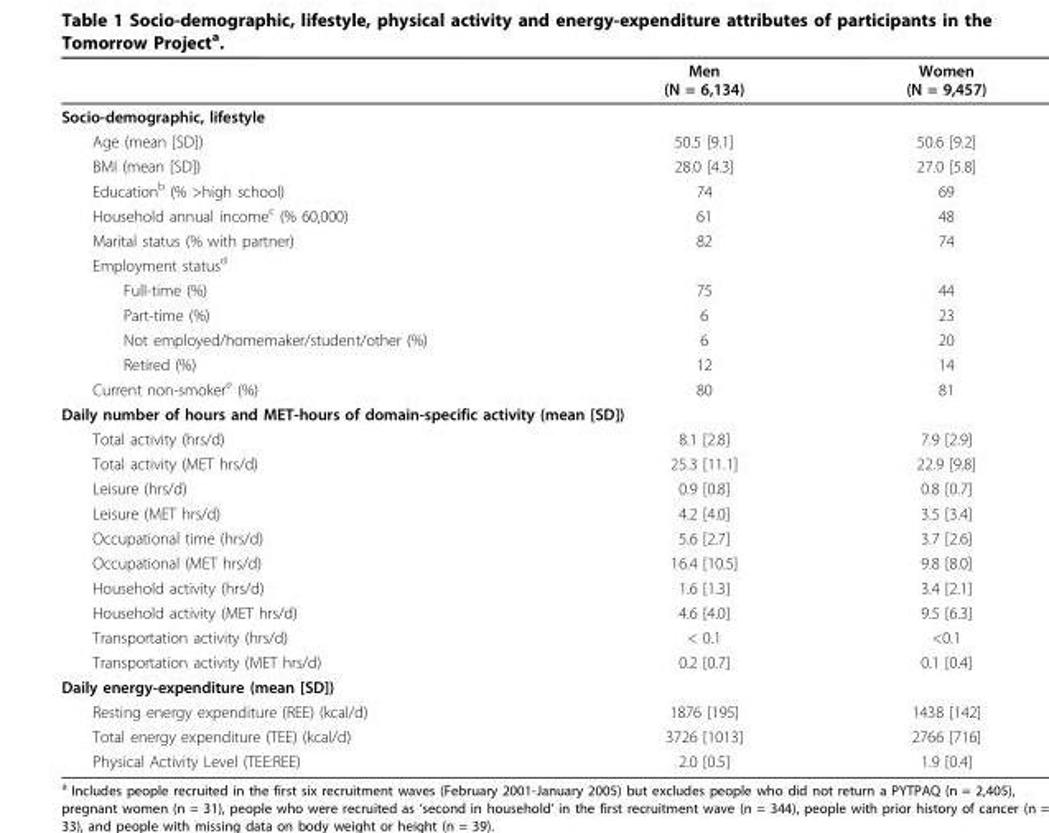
<table><thead><tr><td></td><td>Men (N = 6,134)</td><td>Women (N = 9,457)</td></tr></thead><tbody><tr><td colspan="3">Socio-demographic, lifestyle</td></tr><tr><td>Age (mean [SD])</td><td>50.5 [9.1]</td><td>50.6 [9.2]</td></tr><tr><td>BMI (mean [SD])</td><td>28.0 [4.3]</td><td>27.0 [5.8]</td></tr><tr><td>Education<sup>b</sup> (% &gt;high school)</td><td>74</td><td>69</td></tr><tr><td>Household annual income<sup>c</sup> (% 60,000)</td><td>61</td><td>48</td></tr><tr><td>Marital status (% with partner)</td><td>82</td><td>74</td></tr><tr><td colspan="3">Employment status<sup>d</sup></td></tr><tr><td>Full-time (%)</td><td>75</td><td>44</td></tr><tr><td>Part-time (%)</td><td>6</td><td>23</td></tr><tr><td>Not employed/homemaker/student/other (%)</td><td>6</td><td>20</td></tr><tr><td>Retired (%)</td><td>12</td><td>14</td></tr><tr><td>Current non-smoker<sup>e</sup> (%)</td><td>80</td><td>81</td></tr><tr><td colspan="3">Daily number of hours and MET-hours of domain-specific activity (mean [SD])</td></tr><tr><td>Total activity (hrs/d)</td><td>8.1 [2.8]</td><td>7.9 [2.9]</td></tr><tr><td>Total activity (MET hrs/d)</td><td>25.3 [11.1]</td><td>22.9 [9.8]</td></tr><tr><td>Leisure (hrs/d)</td><td>0.9 [0.8]</td><td>0.8 [0.7]</td></tr><tr><td>Leisure (MET hrs/d)</td><td>4.2 [4.0]</td><td>3.5 [3.4]</td></tr><tr><td>Occupational time (hrs/d)</td><td>5.6 [2.7]</td><td>3.7 [2.6]</td></tr><tr><td>Occupational (MET hrs/d)</td><td>16.4 [10.5]</td><td>9.8 [8.0]</td></tr><tr><td>Household activity (hrs/d)</td><td>1.6 [1.3]</td><td>3.4 [2.1]</td></tr><tr><td>Household activity (MET hrs/d)</td><td>4.6 [4.0]</td><td>9.5 [6.3]</td></tr><tr><td>Transportation activity (hrs/d)</td><td>&lt; 0.1</td><td>&lt;0.1</td></tr><tr><td>Transportation activity (MET hrs/d)</td><td>0.2 [0.7]</td><td>0.1 [0.4]</td></tr><tr><td colspan="3">Daily energy-expenditure (mean [SD])</td></tr><tr><td>Resting energy expenditure (REE) (kcal/d)</td><td>1876 [195]</td><td>1438 [142]</td></tr><tr><td>Total energy expenditure (TEE) (kcal/d)</td><td>3726 [1013]</td><td>2766 [716]</td></tr><tr><td>Physical Activity Level (TEE:REE)</td><td>2.0 [0.5]</td><td>1.9 [0.4]</td></tr></tbody></table>